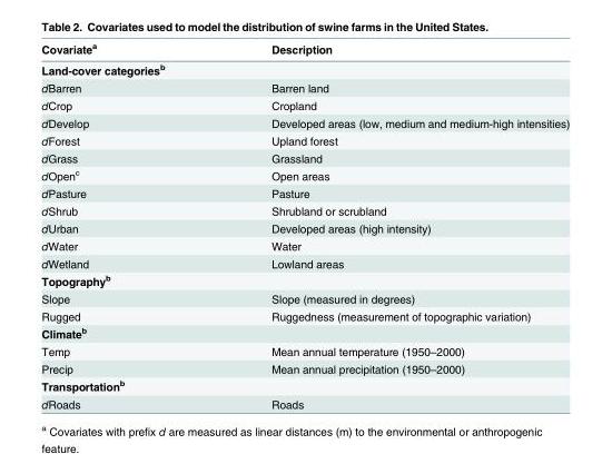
<table><thead><tr><td>Covariate<sup>a</sup></td><td>Description</td></tr></thead><tbody><tr><td colspan="2">Land-cover categories<sup>b</sup></td></tr><tr><td>dBarren</td><td>Barren land</td></tr><tr><td>dCrop</td><td>Cropland</td></tr><tr><td>dDevelop</td><td>Developed areas (low, medium and medium-high intensities)</td></tr><tr><td>dForest</td><td>Upland forest</td></tr><tr><td>dGrass</td><td>Grassland</td></tr><tr><td>dOpen<sup>c</sup></td><td>Open areas</td></tr><tr><td>dPasture</td><td>Pasture</td></tr><tr><td>dShrub</td><td>Shrubland or scrubland</td></tr><tr><td>dUrban</td><td>Developed areas (high intensity)</td></tr><tr><td>dWater</td><td>Water</td></tr><tr><td>dWetland</td><td>Lowland areas</td></tr><tr><td colspan="2">Topography<sup>b</sup></td></tr><tr><td>Slope</td><td>Slope (measured in degrees)</td></tr><tr><td>Rugged</td><td>Ruggedness (measurement of topographic variation)</td></tr><tr><td colspan="2">Climate<sup>b</sup></td></tr><tr><td>Temp</td><td>Mean annual temperature (1950–2000)</td></tr><tr><td>Precip</td><td>Mean annual precipitation (1950–2000)</td></tr><tr><td colspan="2">Transportation<sup>b</sup></td></tr><tr><td>dRoads</td><td>Roads</td></tr></tbody></table>